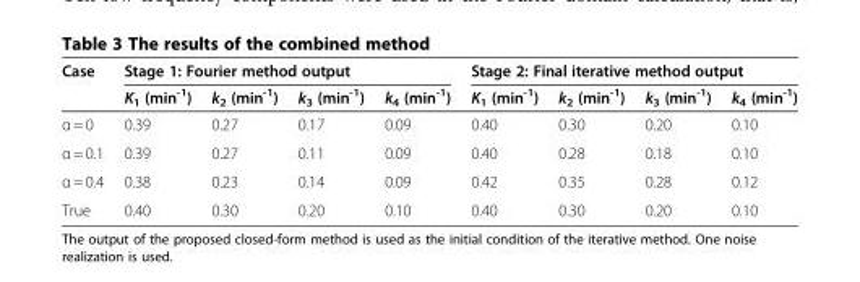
<table><thead><tr><td rowspan="2">Case</td><td colspan="4">Stage 1: Fourier method output</td><td colspan="4">Stage 2: Final iterative method output</td></tr><tr><td>K<sub>1</sub> (min<sup>-1</sup>)</td><td>k<sub>2</sub> (min<sup>-1</sup>)</td><td>k<sub>3</sub> (min<sup>-1</sup>)</td><td>k<sub>4</sub> (min<sup>-1</sup>)</td><td>K<sub>1</sub> (min<sup>-1</sup>)</td><td>k<sub>2</sub> (min<sup>-1</sup>)</td><td>k<sub>3</sub> (min<sup>-1</sup>)</td><td>k<sub>4</sub> (min<sup>-1</sup>)</td></tr></thead><tbody><tr><td>α = 0</td><td>0.39</td><td>0.27</td><td>0.17</td><td>0.09</td><td>0.40</td><td>0.30</td><td>0.20</td><td>0.10</td></tr><tr><td>α = 0.1</td><td>0.39</td><td>0.27</td><td>0.11</td><td>0.09</td><td>0.40</td><td>0.28</td><td>0.18</td><td>0.10</td></tr><tr><td>α = 0.4</td><td>0.38</td><td>0.23</td><td>0.14</td><td>0.09</td><td>0.42</td><td>0.35</td><td>0.28</td><td>0.12</td></tr><tr><td>True</td><td>0.40</td><td>0.30</td><td>0.20</td><td>0.10</td><td>0.40</td><td>0.30</td><td>0.20</td><td>0.10</td></tr></tbody></table>